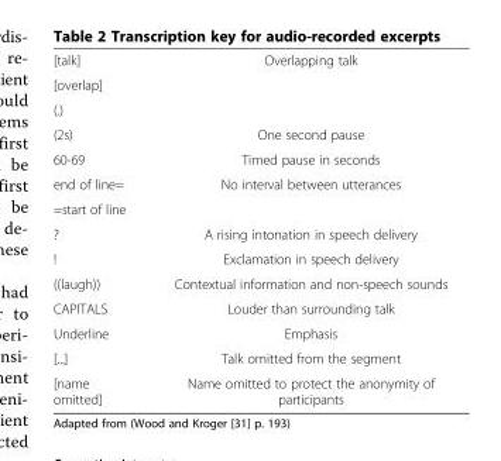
<table><tbody><tr><td>[talk]</td><td>Overlapping talk</td></tr><tr><td colspan="2">[overlap]</td></tr><tr><td colspan="2">(.)</td></tr><tr><td>(2s)</td><td>One second pause</td></tr><tr><td>60-69</td><td>Timed pause in seconds</td></tr><tr><td>end of line=</td><td>No interval between utterances</td></tr><tr><td colspan="2">=start of line</td></tr><tr><td>?</td><td>A rising intonation in speech delivery</td></tr><tr><td>!</td><td>Exclamation in speech delivery</td></tr><tr><td>((laugh))</td><td>Contextual information and non-speech sounds</td></tr><tr><td>CAPITALS</td><td>Louder than surrounding talk</td></tr><tr><td>Underline</td><td>Emphasis</td></tr><tr><td>[...]</td><td>Talk omitted from the segment</td></tr><tr><td>[name omitted]</td><td>Name omitted to protect the anonymity of participants</td></tr></tbody></table>